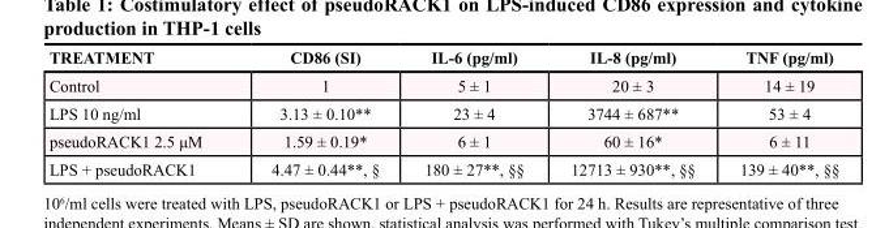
<table><thead><tr><td>TREATMENT</td><td>CD86 (SI)</td><td>IL-6 (pg/ml)</td><td>IL-8 (pg/ml)</td><td>TNF (pg/ml)</td></tr></thead><tbody><tr><td>Control</td><td>1</td><td>5 ± 1</td><td>20 ± 3</td><td>14 ± 19</td></tr><tr><td>LPS 10 ng/ml</td><td>3.13 ± 0.10**</td><td>23 ± 4</td><td>3744 ± 687**</td><td>53 ± 4</td></tr><tr><td>pseudoRACK1 2.5 μM</td><td>1.59 ± 0.19*</td><td>6 ± 1</td><td>60 ± 16*</td><td>6 ± 11</td></tr><tr><td>LPS + pseudoRACK1</td><td>4.47 ± 0.44**, §</td><td>180 ± 27**, §§</td><td>12713 ± 930**, §§</td><td>139 ± 40**, §§</td></tr></tbody></table>